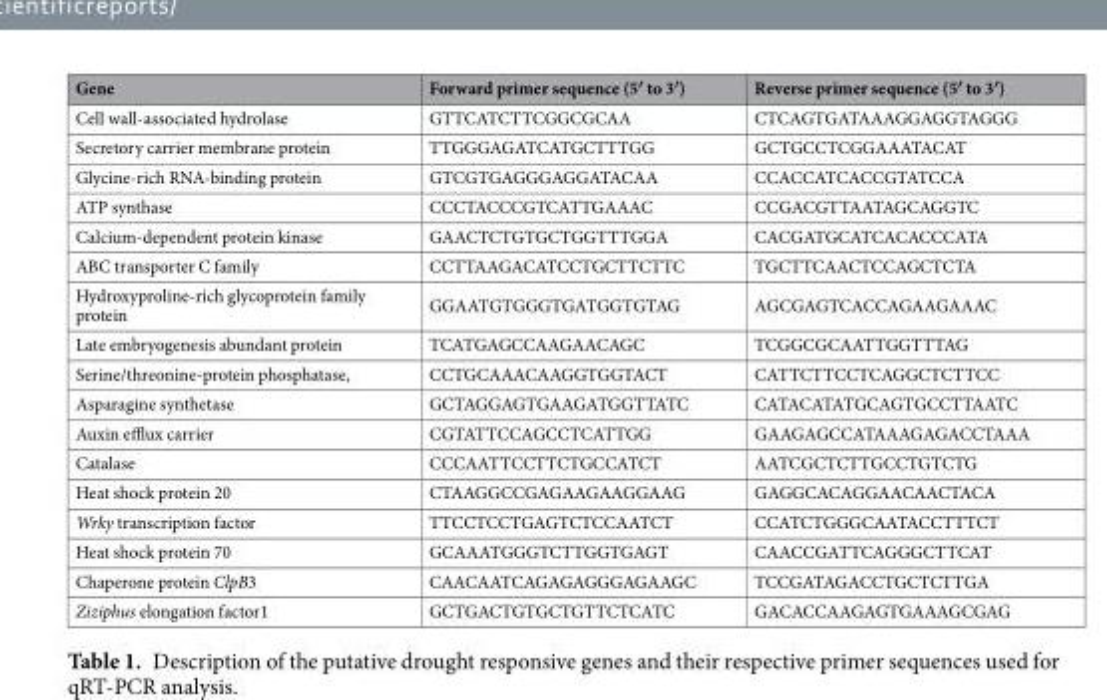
<table><thead><tr><td>Gene</td><td>Forward primer sequence (5′ to 3′)</td><td>Reverse primer sequence (5′ to 3′)</td></tr></thead><tbody><tr><td>Cell wall-associated hydrolase</td><td>GTTCATCTTCGGCGCAA</td><td>CTCAGTGATAAAGGAGGTAGGG</td></tr><tr><td>Secretory carrier membrane protein</td><td>TTGGGAGATCATGCTTTGG</td><td>GCTGCCTCGGAAATACAT</td></tr><tr><td>Glycine-rich RNA-binding protein</td><td>GTCGTGAGGGAGGATACAA</td><td>CCACCATCACCGTATCCA</td></tr><tr><td>ATP synthase</td><td>CCCTACCCGTCATTGAAAC</td><td>CCGACGTTAATAGCAGGTC</td></tr><tr><td>Calcium-dependent protein kinase</td><td>GAACTCTGTGCTGGTTTGGA</td><td>CACGATGCATCACACCCATA</td></tr><tr><td>ABC transporter C family</td><td>CCTTAAGACATCCTGCTTCTTC</td><td>TGCTTCAACTCCAGCTCTA</td></tr><tr><td>Hydroxyproline-rich glycoprotein family protein</td><td>GGAATGTGGGTGATGGTGTAG</td><td>AGCGAGTCACCAGAAGAAAC</td></tr><tr><td>Late embryogenesis abundant protein</td><td>TCATGAGCCAAGAACAGC</td><td>TCGGCGCAATTGGTTTAG</td></tr><tr><td>Serine/threonine-protein phosphatase,</td><td>CCTGCAAACAAGGTGGTACT</td><td>CATTCTTCCTCAGGCTCTTCC</td></tr><tr><td>Asparagine synthetase</td><td>GCTAGGAGTGAAGATGGTTATC</td><td>CATACATATGCAGTGCCTTAATC</td></tr><tr><td>Auxin efflux carrier</td><td>CGTATTCCAGCCTCATTGG</td><td>GAAGAGCCATAAAGAGACCTAAA</td></tr><tr><td>Catalase</td><td>CCCAATTCCTTCTGCCATCT</td><td>AATCGCTCTTGCCTGTCTG</td></tr><tr><td>Heat shock protein 20</td><td>CTAAGGCCGAGAAGAAGGAAG</td><td>GAGGCACAGGAACAACTACA</td></tr><tr><td>Wrky transcription factor</td><td>TTCCTCCTGAGTCTCCAATCT</td><td>CCATCTGGGCAATACCTTTCT</td></tr><tr><td>Heat shock protein 70</td><td>GCAAATGGGTCTTGGTGAGT</td><td>CAACCGATTCAGGGCTTCAT</td></tr><tr><td>Chaperone protein ClpB3</td><td>CAACAATCAGAGAGGGAGAAGC</td><td>TCCGATAGACCTGCTCTTGA</td></tr><tr><td>Ziziphus elongation factor1</td><td>GCTGACTGTGCTGTTCTCATC</td><td>GACACCAAGAGTGAAAGCGAG</td></tr></tbody></table>